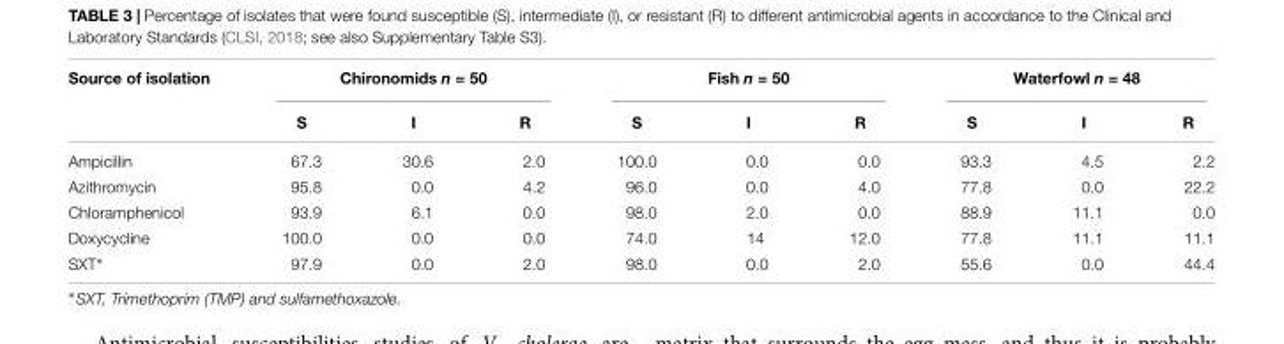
<table><thead><tr><td rowspan="2">Source of isolation</td><td colspan="3">Chironomids n = 50</td><td colspan="3">Fish n = 50</td><td colspan="3">Waterfowl n = 48</td></tr><tr><td>S</td><td>I</td><td>R</td><td>S</td><td>I</td><td>R</td><td>S</td><td>I</td><td>R</td></tr></thead><tbody><tr><td>Ampicillin</td><td>67.3</td><td>30.6</td><td>2.0</td><td>100.0</td><td>0.0</td><td>0.0</td><td>93.3</td><td>4.5</td><td>2.2</td></tr><tr><td>Azithromycin</td><td>95.8</td><td>0.0</td><td>4.2</td><td>96.0</td><td>0.0</td><td>4.0</td><td>77.8</td><td>0.0</td><td>22.2</td></tr><tr><td>Chloramphenicol</td><td>93.9</td><td>6.1</td><td>0.0</td><td>98.0</td><td>2.0</td><td>0.0</td><td>88.9</td><td>11.1</td><td>0.0</td></tr><tr><td>Doxycycline</td><td>100.0</td><td>0.0</td><td>0.0</td><td>74.0</td><td>14</td><td>12.0</td><td>77.8</td><td>11.1</td><td>11.1</td></tr><tr><td>SXT∗</td><td>97.9</td><td>0.0</td><td>2.0</td><td>98.0</td><td>0.0</td><td>2.0</td><td>55.6</td><td>0.0</td><td>44.4</td></tr></tbody></table>